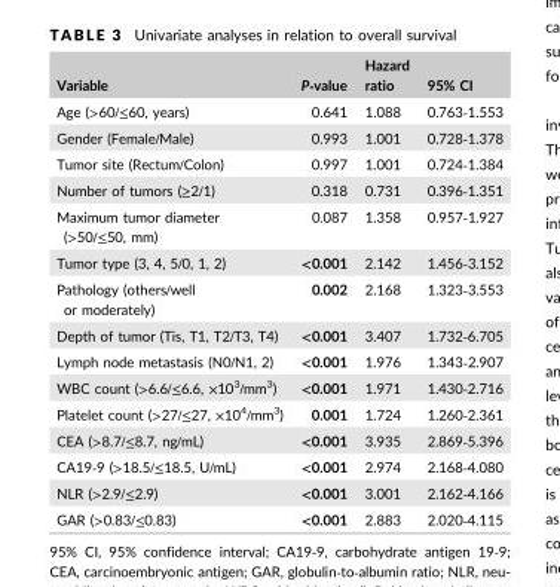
<table><thead><tr><td>Variable</td><td>P‐value</td><td>Hazard ratio</td><td>95% CI</td></tr></thead><tbody><tr><td>Age (&gt;60/≤60, years)</td><td>0.641</td><td>1.088</td><td>0.763‐1.553</td></tr><tr><td>Gender (Female/Male)</td><td>0.993</td><td>1.001</td><td>0.728‐1.378</td></tr><tr><td>Tumor site (Rectum/Colon)</td><td>0.997</td><td>1.001</td><td>0.724‐1.384</td></tr><tr><td>Number of tumors (≥2/1)</td><td>0.318</td><td>0.731</td><td>0.396‐1.351</td></tr><tr><td>Maximum tumor diameter (&gt;50/≤50, mm)</td><td>0.087</td><td>1.358</td><td>0.957‐1.927</td></tr><tr><td>Tumor type (3, 4, 5/0, 1, 2)</td><td>&lt;0.001</td><td>2.142</td><td>1.456‐3.152</td></tr><tr><td>Pathology (others/well or moderately)</td><td>0.002</td><td>2.168</td><td>1.323‐3.553</td></tr><tr><td>Depth of tumor (Tis, T1, T2/T3, T4)</td><td>&lt;0.001</td><td>3.407</td><td>1.732‐6.705</td></tr><tr><td>Lymph node metastasis (N0/N1, 2)</td><td>&lt;0.001</td><td>1.976</td><td>1.343‐2.907</td></tr><tr><td>WBC count (&gt;6.6/≤6.6, ×10<sup>3</sup>/mm<sup>3</sup>)</td><td>&lt;0.001</td><td>1.971</td><td>1.430‐2.716</td></tr><tr><td>Platelet count (&gt;27/≤27, ×10<sup>4</sup>/mm<sup>3</sup>)</td><td>0.001</td><td>1.724</td><td>1.260‐2.361</td></tr><tr><td>CEA (&gt;8.7/≤8.7, ng/mL)</td><td>&lt;0.001</td><td>3.935</td><td>2.869‐5.396</td></tr><tr><td>CA19‐9 (&gt;18.5/≤18.5, U/mL)</td><td>&lt;0.001</td><td>2.974</td><td>2.168‐4.080</td></tr><tr><td>NLR (&gt;2.9/≤2.9)</td><td>&lt;0.001</td><td>3.001</td><td>2.162‐4.166</td></tr><tr><td>GAR (&gt;0.83/≤0.83)</td><td>&lt;0.001</td><td>2.883</td><td>2.020‐4.115</td></tr></tbody></table>